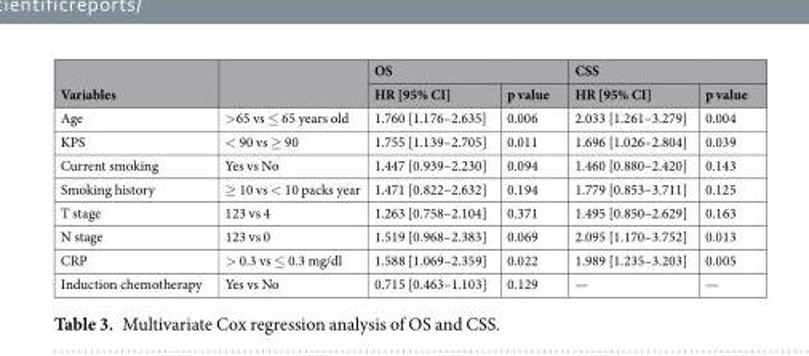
<table><thead><tr><td rowspan="2">Variables</td><td rowspan="2"></td><td colspan="2">OS</td><td colspan="2">CSS</td></tr><tr><td>HR [95% CI]</td><td>p value</td><td>HR [95% CI]</td><td>p value</td></tr></thead><tbody><tr><td>Age</td><td>&gt;65 vs ≤ 65 years old</td><td>1.760 [1.176–2.635]</td><td>0.006</td><td>2.033 [1.261–3.279]</td><td>0.004</td></tr><tr><td>KPS</td><td>&lt; 90 vs ≥ 90</td><td>1.755 [1.139–2.705]</td><td>0.011</td><td>1.696 [1.026–2.804]</td><td>0.039</td></tr><tr><td>Current smoking</td><td>Yes vs No</td><td>1.447 [0.939–2.230]</td><td>0.094</td><td>1.460 [0.880–2.420]</td><td>0.143</td></tr><tr><td>Smoking history</td><td>≥ 10 vs &lt; 10 packs year</td><td>1.471 [0.822–2.632]</td><td>0.194</td><td>1.779 [0.853–3.711]</td><td>0.125</td></tr><tr><td>T stage</td><td>123 vs 4</td><td>1.263 [0.758–2.104]</td><td>0.371</td><td>1.495 [0.850–2.629]</td><td>0.163</td></tr><tr><td>N stage</td><td>123 vs 0</td><td>1.519 [0.968–2.383]</td><td>0.069</td><td>2.095 [1.170–3.752]</td><td>0.013</td></tr><tr><td>CRP</td><td>&gt; 0.3 vs ≤ 0.3 mg/dl</td><td>1.588 [1.069–2.359]</td><td>0.022</td><td>1.989 [1.235–3.203]</td><td>0.005</td></tr><tr><td>Induction chemotherapy</td><td>Yes vs No</td><td>0.715 [0.463–1.103]</td><td>0.129</td><td>—</td><td>—</td></tr></tbody></table>